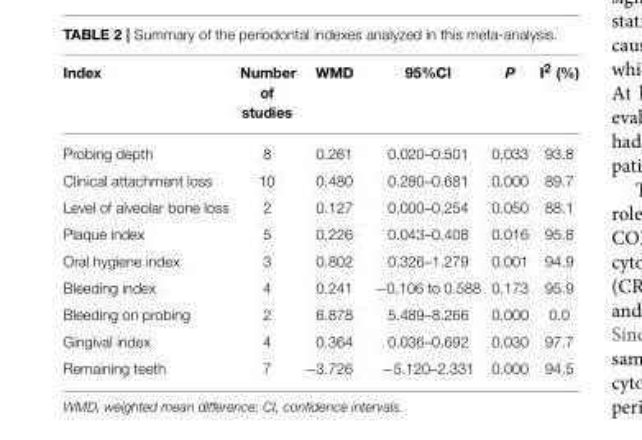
<table><thead><tr><td>Index</td><td>Number of studies</td><td>WMD</td><td>95%CI</td><td>P</td><td>I<sup>2</sup> (%)</td></tr></thead><tbody><tr><td>Probing depth</td><td>8</td><td>0.261</td><td>0.020–0.501</td><td>0.033</td><td>93.8</td></tr><tr><td>Clinical attachment loss</td><td>10</td><td>0.480</td><td>0.280–0.681</td><td>0.000</td><td>89.7</td></tr><tr><td>Level of alveolar bone loss</td><td>2</td><td>0.127</td><td>0.000–0.254</td><td>0.050</td><td>88.1</td></tr><tr><td>Plaque index</td><td>5</td><td>0.226</td><td>0.043–0.408</td><td>0.016</td><td>95.8</td></tr><tr><td>Oral hygiene index</td><td>3</td><td>0.802</td><td>0.326–1.279</td><td>0.001</td><td>94.9</td></tr><tr><td>Bleeding index</td><td>4</td><td>0.241</td><td>−0.106 to 0.588</td><td>0.173</td><td>95.9</td></tr><tr><td>Bleeding on probing</td><td>2</td><td>6.878</td><td>5.489–8.266</td><td>0.000</td><td>0.0</td></tr><tr><td>Gingival index</td><td>4</td><td>0.364</td><td>0.036–0.692</td><td>0.030</td><td>97.7</td></tr><tr><td>Remaining teeth</td><td>7</td><td>−3.726</td><td>−5.120–2.331</td><td>0.000</td><td>94.5</td></tr></tbody></table>